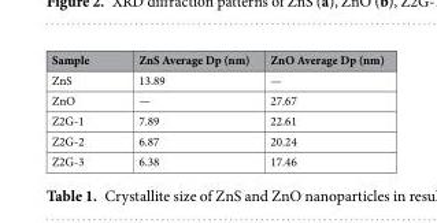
<table><thead><tr><td>Sample</td><td>ZnS Average Dp (nm)</td><td>ZnO Average Dp (nm)</td></tr></thead><tbody><tr><td>ZnS</td><td>13.89</td><td>—</td></tr><tr><td>ZnO</td><td>—</td><td>27.67</td></tr><tr><td>Z2G-1</td><td>7.89</td><td>22.61</td></tr><tr><td>Z2G-2</td><td>6.87</td><td>20.24</td></tr><tr><td>Z2G-3</td><td>6.38</td><td>17.46</td></tr></tbody></table>